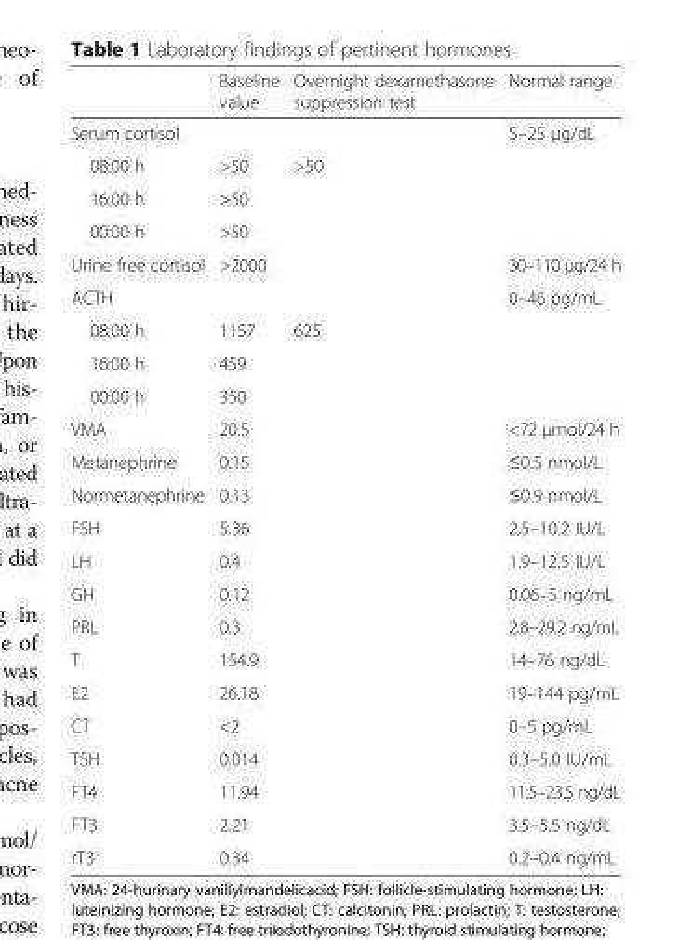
<table><thead><tr><td></td><td>Baseline value</td><td>Overnight dexamethasone suppression test</td><td>Normal range</td></tr></thead><tbody><tr><td>Serum cortisol</td><td></td><td></td><td>5–25 μg/dL</td></tr><tr><td>08:00 h</td><td>&gt;50</td><td>&gt;50</td><td></td></tr><tr><td>16:00 h</td><td>&gt;50</td><td></td><td></td></tr><tr><td>00:00 h</td><td>&gt;50</td><td></td><td></td></tr><tr><td>Urine free cortisol</td><td>&gt;2000</td><td></td><td>30–110 μg/24 h</td></tr><tr><td>ACTH</td><td></td><td></td><td>0–46 pg/mL</td></tr><tr><td>08:00 h</td><td>1157</td><td>625</td><td></td></tr><tr><td>16:00 h</td><td>459</td><td></td><td></td></tr><tr><td>00:00 h</td><td>350</td><td></td><td></td></tr><tr><td>VMA</td><td>20.5</td><td></td><td>&lt;72 μmol/24 h</td></tr><tr><td>Metanephrine</td><td>0.15</td><td></td><td>≤0.5 nmol/L</td></tr><tr><td>Normetanephrine</td><td>0.13</td><td></td><td>≤0.9 nmol/L</td></tr><tr><td>FSH</td><td>5.36</td><td></td><td>2.5–10.2 IU/L</td></tr><tr><td>LH</td><td>0.4</td><td></td><td>1.9–12.5 IU/L</td></tr><tr><td>GH</td><td>0.12</td><td></td><td>0.06–5 ng/mL</td></tr><tr><td>PRL</td><td>0.3</td><td></td><td>2.8–29.2 ng/mL</td></tr><tr><td>T</td><td>154.9</td><td></td><td>14–76 ng/dL</td></tr><tr><td>E2</td><td>26.18</td><td></td><td>19–144 pg/mL</td></tr><tr><td>CT</td><td>&lt;2</td><td></td><td>0–5 pg/mL</td></tr><tr><td>TSH</td><td>0.014</td><td></td><td>0.3–5.0 IU/mL</td></tr><tr><td>FT4</td><td>11.94</td><td></td><td>11.5–23.5 ng/dL</td></tr><tr><td>FT3</td><td>2.21</td><td></td><td>3.5–5.5 ng/dL</td></tr><tr><td>rT3</td><td>0.34</td><td></td><td>0.2–0.4 ng/mL</td></tr></tbody></table>